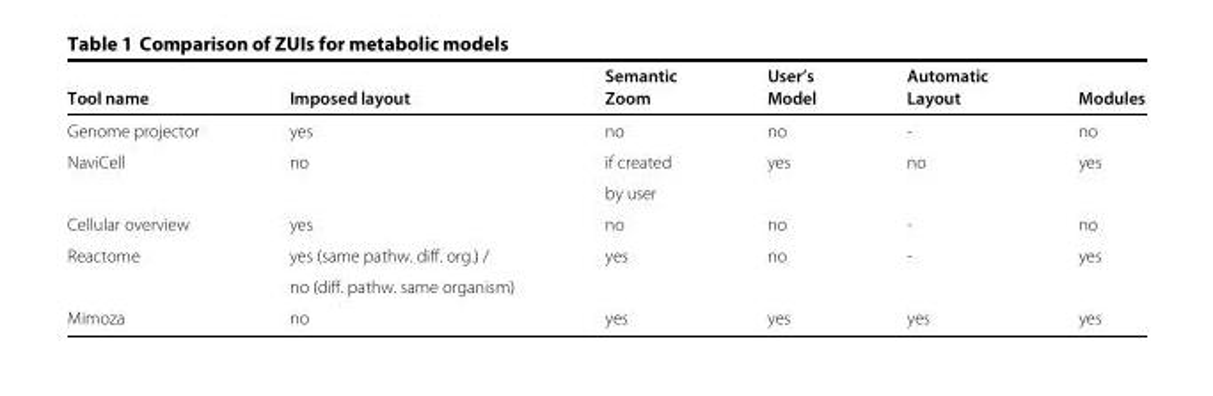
<table><thead><tr><td rowspan="2">Tool name</td><td rowspan="2">Imposed layout</td><td rowspan="2">Semantic Zoom</td><td rowspan="2">User’s Model</td><td rowspan="2">Automatic Layout</td><td rowspan="2">Modules</td></tr><tr></tr></thead><tbody><tr><td>Genome projector</td><td>yes</td><td>no</td><td>no</td><td>-</td><td>no</td></tr><tr><td rowspan="2">NaviCell</td><td>no</td><td>if created</td><td>yes</td><td>no</td><td>yes</td></tr><tr><td></td><td>by user</td><td></td><td></td><td></td></tr><tr><td>Cellular overview</td><td>yes</td><td>no</td><td>no</td><td>-</td><td>no</td></tr><tr><td rowspan="2">Reactome</td><td>yes (same pathw. diff. org.) /</td><td>yes</td><td>no</td><td>-</td><td>yes</td></tr><tr><td>no (diff. pathw. same organism)</td><td></td><td></td><td></td><td></td></tr><tr><td>Mimoza</td><td>no</td><td>yes</td><td>yes</td><td>yes</td><td>yes</td></tr></tbody></table>